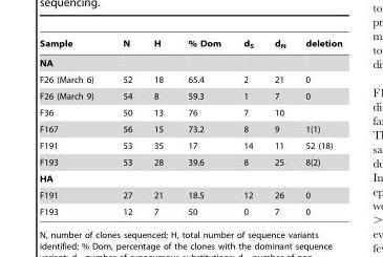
<table><thead><tr><td>Sample</td><td>N</td><td>H</td><td>% Dom</td><td>d<sub>S</sub></td><td>d<sub>N</sub></td><td>deletion</td></tr></thead><tbody><tr><td colspan="7">NA</td></tr><tr><td>F26 (March 6)</td><td>52</td><td>18</td><td>65.4</td><td>2</td><td>21</td><td>0</td></tr><tr><td>F26 (March 9)</td><td>54</td><td>8</td><td>59.3</td><td>1</td><td>7</td><td>0</td></tr><tr><td>F36</td><td>50</td><td>13</td><td>76</td><td>7</td><td>10</td><td></td></tr><tr><td>F167</td><td>56</td><td>15</td><td>73.2</td><td>8</td><td>9</td><td>1(1)</td></tr><tr><td>F191</td><td>53</td><td>35</td><td>17</td><td>14</td><td>11</td><td>52 (18)</td></tr><tr><td>F193</td><td>53</td><td>28</td><td>39.6</td><td>8</td><td>25</td><td>8(2)</td></tr><tr><td colspan="7">HA</td></tr><tr><td>F191</td><td>27</td><td>21</td><td>18.5</td><td>12</td><td>26</td><td>0</td></tr><tr><td>F193</td><td>12</td><td>7</td><td>50</td><td>0</td><td>7</td><td>0</td></tr></tbody></table>